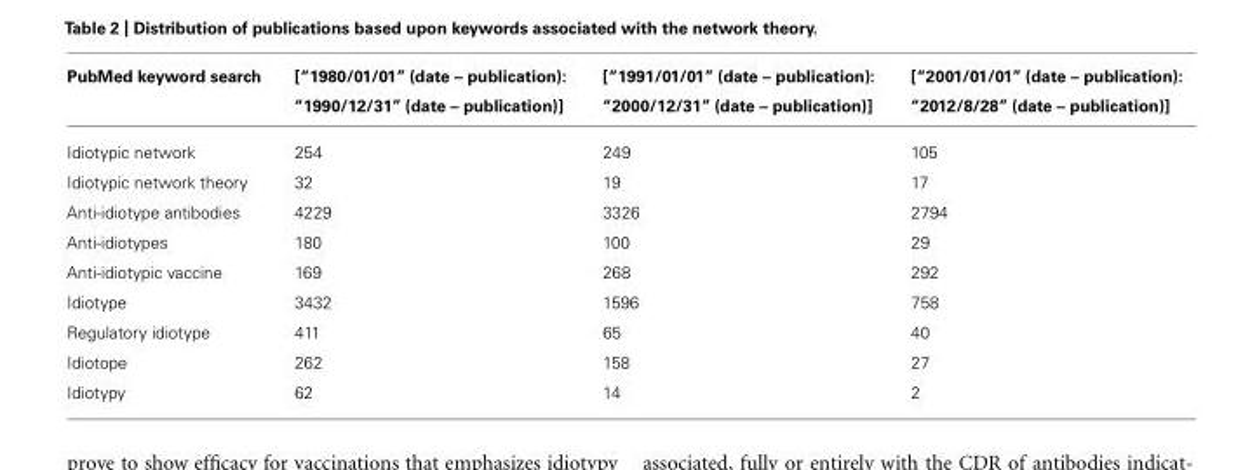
<table><thead><tr><td>PubMed keyword search</td><td>[“1980/01/01” (date – publication): “1990/12/31” (date – publication)]</td><td>[“1991/01/01” (date – publication): “2000/12/31” (date – publication)]</td><td>[“2001/01/01” (date – publication): “2012/8/28” (date – publication)]</td></tr></thead><tbody><tr><td>Idiotypic network</td><td>254</td><td>249</td><td>105</td></tr><tr><td>Idiotypic network theory</td><td>32</td><td>19</td><td>17</td></tr><tr><td>Anti-idiotype antibodies</td><td>4229</td><td>3326</td><td>2794</td></tr><tr><td>Anti-idiotypes</td><td>180</td><td>100</td><td>29</td></tr><tr><td>Anti-idiotypic vaccine</td><td>169</td><td>268</td><td>292</td></tr><tr><td>Idiotype</td><td>3432</td><td>1596</td><td>758</td></tr><tr><td>Regulatory idiotype</td><td>411</td><td>65</td><td>40</td></tr><tr><td>Idiotope</td><td>262</td><td>158</td><td>27</td></tr><tr><td>Idiotypy</td><td>62</td><td>14</td><td>2</td></tr></tbody></table>